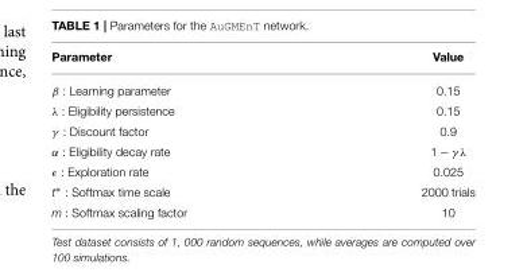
<table><thead><tr><td>Parameter</td><td>Value</td></tr></thead><tbody><tr><td>β : Learning parameter</td><td>0.15</td></tr><tr><td>λ : Eligibility persistence</td><td>0.15</td></tr><tr><td>γ : Discount factor</td><td>0.9</td></tr><tr><td>α : Eligibility decay rate</td><td>1 − γ λ</td></tr><tr><td>ǫ : Exploration rate</td><td>0.025</td></tr><tr><td>t∗ : Softmax time scale</td><td>2000 trials</td></tr><tr><td>m : Softmax scaling factor</td><td>10</td></tr></tbody></table>